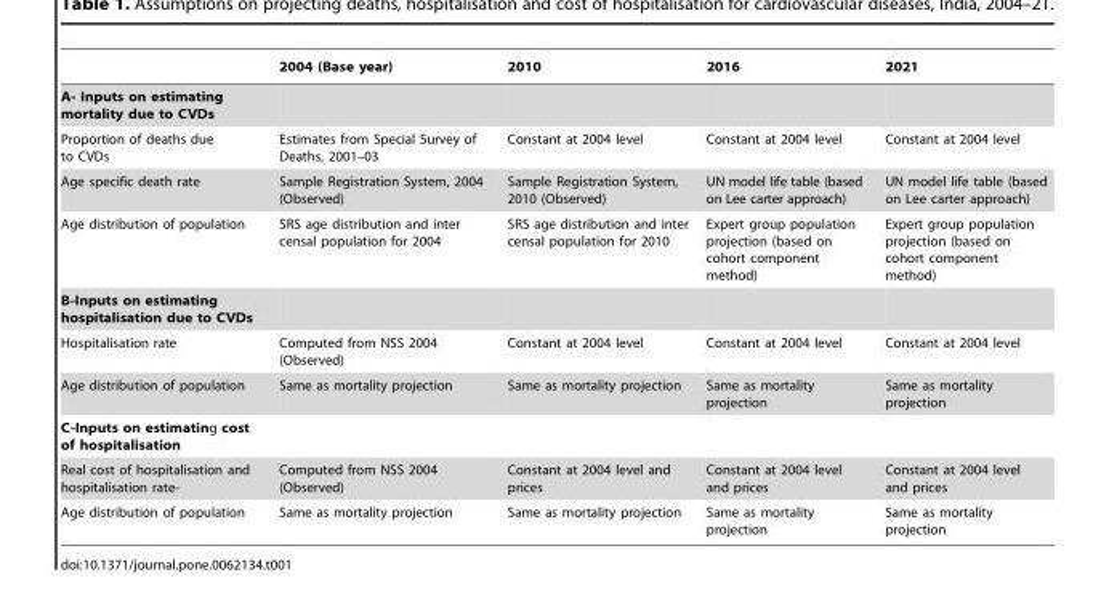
<table><thead><tr><td></td><td>2004 (Base year)</td><td>2010</td><td>2016</td><td>2021</td></tr></thead><tbody><tr><td colspan="5">A- Inputs on estimating mortality due to CVDs</td></tr><tr><td>Proportion of deaths due to CVDs</td><td>Estimates from Special Survey of Deaths, 2001–03</td><td>Constant at 2004 level</td><td>Constant at 2004 level</td><td>Constant at 2004 level</td></tr><tr><td>Age specific death rate</td><td>Sample Registration System, 2004 (Observed)</td><td>Sample Registration System, 2010 (Observed)</td><td>UN model life table (based on Lee carter approach)</td><td>UN model life table (based on Lee carter approach)</td></tr><tr><td>Age distribution of population</td><td>SRS age distribution and inter censal population for 2004</td><td>SRS age distribution and inter censal population for 2010</td><td>Expert group population projection (based on cohort component method)</td><td>Expert group population projection (based on cohort component method)</td></tr><tr><td colspan="5">B-Inputs on estimating hospitalisation due to CVDs</td></tr><tr><td>Hospitalisation rate</td><td>Computed from NSS 2004 (Observed)</td><td>Constant at 2004 level</td><td>Constant at 2004 level</td><td>Constant at 2004 level</td></tr><tr><td>Age distribution of population</td><td>Same as mortality projection</td><td>Same as mortality projection</td><td>Same as mortality projection</td><td>Same as mortality projection</td></tr><tr><td colspan="5">C-Inputs on estimating cost of hospitalisation</td></tr><tr><td>Real cost of hospitalisation and hospitalisation rate-</td><td>Computed from NSS 2004 (Observed)</td><td>Constant at 2004 level and prices</td><td>Constant at 2004 level and prices</td><td>Constant at 2004 level and prices</td></tr><tr><td>Age distribution of population</td><td>Same as mortality projection</td><td>Same as mortality projection</td><td>Same as mortality projection</td><td>Same as mortality projection</td></tr></tbody></table>